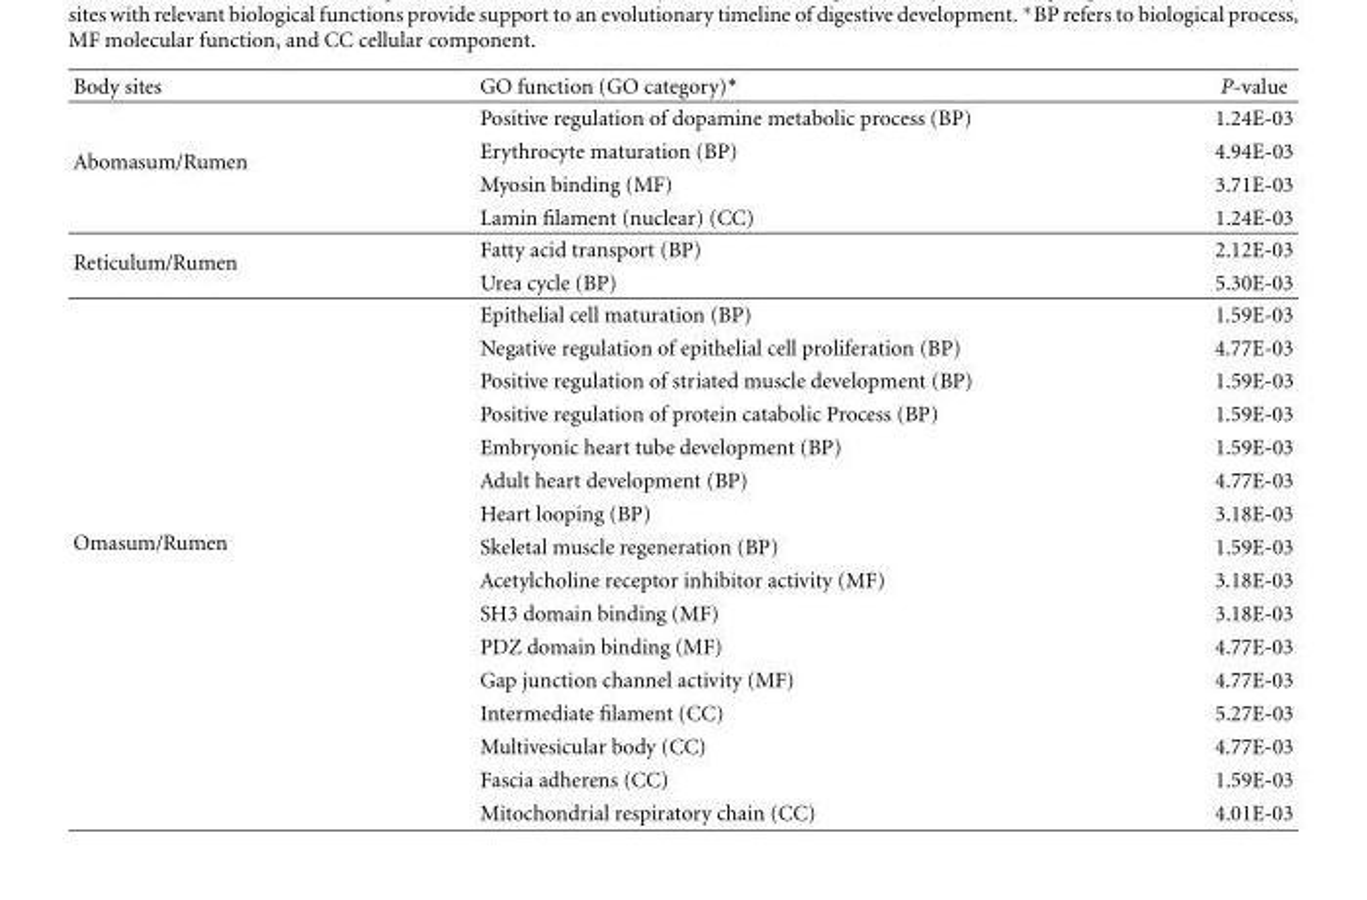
<table><thead><tr><td>Body sites</td><td>GO function (GO category)∗</td><td>P-value</td></tr></thead><tbody><tr><td rowspan="4">Abomasum/Rumen</td><td>Positive regulation of dopamine metabolic process (BP)</td><td>1.24E-03</td></tr><tr><td>Erythrocyte maturation (BP)</td><td>4.94E-03</td></tr><tr><td>Myosin binding (MF)</td><td>3.71E-03</td></tr><tr><td>Lamin filament (nuclear) (CC)</td><td>1.24E-03</td></tr><tr><td rowspan="2">Reticulum/Rumen</td><td>Fatty acid transport (BP)</td><td>2.12E-03</td></tr><tr><td>Urea cycle (BP)</td><td>5.30E-03</td></tr><tr><td rowspan="16">Omasum/Rumen</td><td>Epithelial cell maturation (BP)</td><td>1.59E-03</td></tr><tr><td>Negative regulation of epithelial cell proliferation (BP)</td><td>4.77E-03</td></tr><tr><td>Positive regulation of striated muscle development (BP)</td><td>1.59E-03</td></tr><tr><td>Positive regulation of protein catabolic Process (BP)</td><td>1.59E-03</td></tr><tr><td>Embryonic heart tube development (BP)</td><td>1.59E-03</td></tr><tr><td>Adult heart development (BP)</td><td>4.77E-03</td></tr><tr><td>Heart looping (BP)</td><td>3.18E-03</td></tr><tr><td>Skeletal muscle regeneration (BP)</td><td>1.59E-03</td></tr><tr><td>Acetylcholine receptor inhibitor activity (MF)</td><td>3.18E-03</td></tr><tr><td>SH3 domain binding (MF)</td><td>3.18E-03</td></tr><tr><td>PDZ domain binding (MF)</td><td>4.77E-03</td></tr><tr><td>Gap junction channel activity (MF)</td><td>4.77E-03</td></tr><tr><td>Intermediate filament (CC)</td><td>5.27E-03</td></tr><tr><td>Multivesicular body (CC)</td><td>4.77E-03</td></tr><tr><td>Fascia adherens (CC)</td><td>1.59E-03</td></tr><tr><td>Mitochondrial respiratory chain (CC)</td><td>4.01E-03</td></tr></tbody></table>